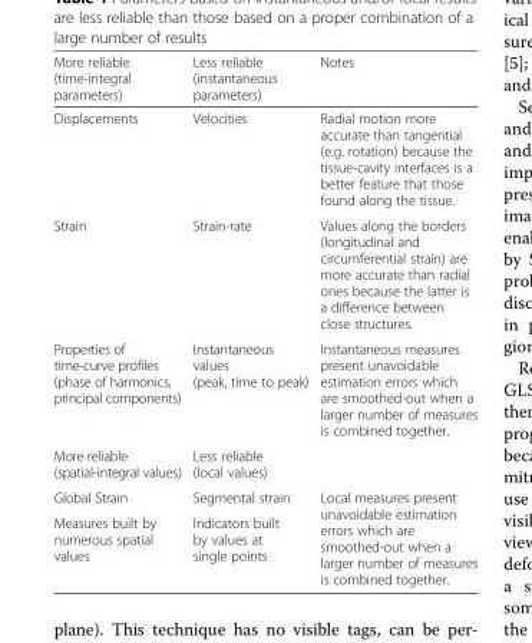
<table><thead><tr><td>More reliable (time-integral parameters)</td><td>Less reliable (instantaneous parameters)</td><td>Notes</td></tr></thead><tbody><tr><td>Displacements</td><td>Velocities</td><td>Radial motion more accurate than tangential (e.g. rotation) because the tissue-cavity interfaces is a better feature that those found along the tissue.</td></tr><tr><td>Strain</td><td>Strain-rate</td><td>Values along the borders (longitudinal and circumferential strain) are more accurate than radial ones because the latter is a difference between close structures.</td></tr><tr><td>Properties of time-curve profiles (phase of harmonics, principal components)</td><td>Instantaneous values (peak, time to peak)</td><td>Instantaneous measures present unavoidable estimation errors which are smoothed-out when a larger number of measures is combined together.</td></tr><tr><td>More reliable (spatial-integral values)</td><td>Less reliable (local values)</td><td></td></tr><tr><td>Global Strain</td><td>Segmental strain</td><td rowspan="2">Local measures present unavoidable estimation errors which are smoothed-out when a larger number of measures is combined together.</td></tr><tr><td>Measures built by numerous spatial values</td><td>Indicators built by values at single points</td></tr></tbody></table>